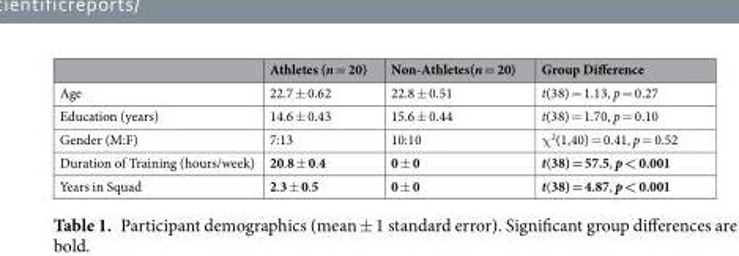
<table><thead><tr><td></td><td>Athletes (n = 20)</td><td>Non-Athletes(n = 20)</td><td>Group Difference</td></tr></thead><tbody><tr><td>Age</td><td>22.7 ± 0.62</td><td>22.8 ± 0.51</td><td>t(38) = 1.13, p = 0.27</td></tr><tr><td>Education (years)</td><td>14.6 ± 0.43</td><td>15.6 ± 0.44</td><td>t(38) = 1.70, p = 0.10</td></tr><tr><td>Gender (M:F)</td><td>7:13</td><td>10:10</td><td>χ<sup>2</sup>(1,40) = 0.41, p = 0.52</td></tr><tr><td>Duration of Training (hours/week)</td><td>20.8 ± 0.4</td><td>0 ± 0</td><td>t(38) = 57.5, p &lt; 0.001</td></tr><tr><td>Years in Squad</td><td>2.3 ± 0.5</td><td>0 ± 0</td><td>t(38) = 4.87, p &lt; 0.001</td></tr></tbody></table>